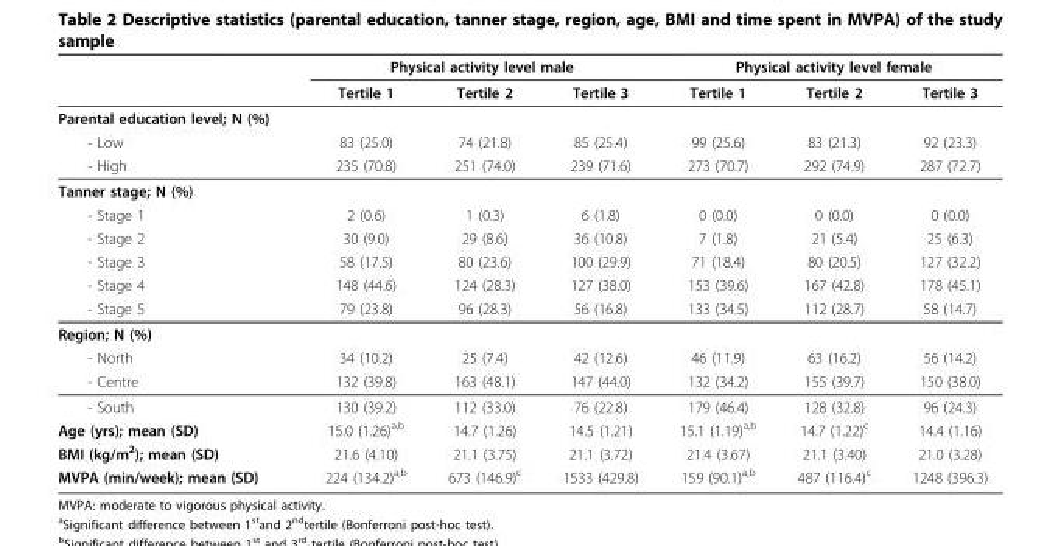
<table><thead><tr><td rowspan="2"></td><td colspan="3">Physical activity level male</td><td colspan="3">Physical activity level female</td></tr><tr><td>Tertile 1</td><td>Tertile 2</td><td>Tertile 3</td><td>Tertile 1</td><td>Tertile 2</td><td>Tertile 3</td></tr></thead><tbody><tr><td colspan="7">Parental education level; N (%)</td></tr><tr><td>- Low</td><td>83 (25.0)</td><td>74 (21.8)</td><td>85 (25.4)</td><td>99 (25.6)</td><td>83 (21.3)</td><td>92 (23.3)</td></tr><tr><td>- High</td><td>235 (70.8)</td><td>251 (74.0)</td><td>239 (71.6)</td><td>273 (70.7)</td><td>292 (74.9)</td><td>287 (72.7)</td></tr><tr><td colspan="7">Tanner stage; N (%)</td></tr><tr><td>- Stage 1</td><td>2 (0.6)</td><td>1 (0.3)</td><td>6 (1.8)</td><td>0 (0.0)</td><td>0 (0.0)</td><td>0 (0.0)</td></tr><tr><td>- Stage 2</td><td>30 (9.0)</td><td>29 (8.6)</td><td>36 (10.8)</td><td>7 (1.8)</td><td>21 (5.4)</td><td>25 (6.3)</td></tr><tr><td>- Stage 3</td><td>58 (17.5)</td><td>80 (23.6)</td><td>100 (29.9)</td><td>71 (18.4)</td><td>80 (20.5)</td><td>127 (32.2)</td></tr><tr><td>- Stage 4</td><td>148 (44.6)</td><td>124 (28.3)</td><td>127 (38.0)</td><td>153 (39.6)</td><td>167 (42.8)</td><td>178 (45.1)</td></tr><tr><td>- Stage 5</td><td>79 (23.8)</td><td>96 (28.3)</td><td>56 (16.8)</td><td>133 (34.5)</td><td>112 (28.7)</td><td>58 (14.7)</td></tr><tr><td colspan="7">Region; N (%)</td></tr><tr><td>- North</td><td>34 (10.2)</td><td>25 (7.4)</td><td>42 (12.6)</td><td>46 (11.9)</td><td>63 (16.2)</td><td>56 (14.2)</td></tr><tr><td>- Centre</td><td>132 (39.8)</td><td>163 (48.1)</td><td>147 (44.0)</td><td>132 (34.2)</td><td>155 (39.7)</td><td>150 (38.0)</td></tr><tr><td>- South</td><td>130 (39.2)</td><td>112 (33.0)</td><td>76 (22.8)</td><td>179 (46.4)</td><td>128 (32.8)</td><td>96 (24.3)</td></tr><tr><td>Age (yrs); mean (SD)</td><td>15.0 (1.26)<sup>a,b</sup></td><td>14.7 (1.26)</td><td>14.5 (1.21)</td><td>15.1 (1.19)<sup>a,b</sup></td><td>14.7 (1.22)<sup>c</sup></td><td>14.4 (1.16)</td></tr><tr><td>BMI (kg/m<sup>2</sup>); mean (SD)</td><td>21.6 (4.10)</td><td>21.1 (3.75)</td><td>21.1 (3.72)</td><td>21.4 (3.67)</td><td>21.1 (3.40)</td><td>21.0 (3.28)</td></tr><tr><td>MVPA (min/week); mean (SD)</td><td>224 (134.2)<sup>a,b</sup></td><td>673 (146.9)<sup>c</sup></td><td>1533 (429.8)</td><td>159 (90.1)<sup>a,b</sup></td><td>487 (116.4)<sup>c</sup></td><td>1248 (396.3)</td></tr></tbody></table>